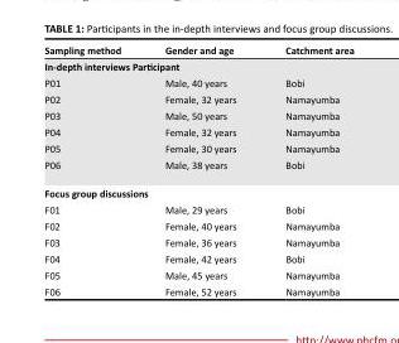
<table><thead><tr><td>Sampling method</td><td>Gender and age</td><td>Catchment area</td></tr></thead><tbody><tr><td colspan="3">In-depth interviews Participant</td></tr><tr><td>P01</td><td>Male, 40 years</td><td>Bobi</td></tr><tr><td>P02</td><td>Female, 32 years</td><td>Namayumba</td></tr><tr><td>P03</td><td>Male, 50 years</td><td>Namayumba</td></tr><tr><td>P04</td><td>Female, 32 years</td><td>Namayumba</td></tr><tr><td>P05</td><td>Female, 30 years</td><td>Namayumba</td></tr><tr><td>P06</td><td>Male, 38 years</td><td>Bobi</td></tr><tr><td colspan="3">Focus group discussions</td></tr><tr><td>F01</td><td>Male, 29 years</td><td>Bobi</td></tr><tr><td>F02</td><td>Female, 40 years</td><td>Namayumba</td></tr><tr><td>F03</td><td>Female, 36 years</td><td>Namayumba</td></tr><tr><td>F04</td><td>Female, 42 years</td><td>Bobi</td></tr><tr><td>F05</td><td>Male, 45 years</td><td>Namayumba</td></tr><tr><td>F06</td><td>Female, 52 years</td><td>Namayumba</td></tr></tbody></table>